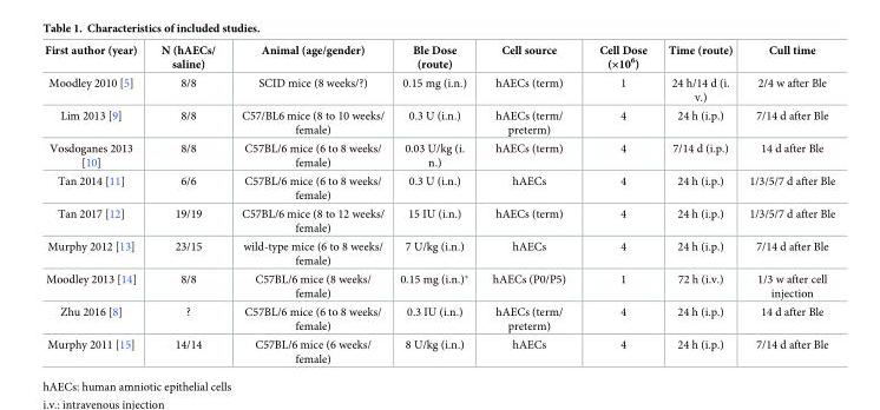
<table><thead><tr><td>First author (year)</td><td>N (hAECs/ saline)</td><td>Animal (age/gender)</td><td>Ble Dose (route)</td><td>Cell source</td><td>Cell Dose (×10<sup>6</sup>)</td><td>Time (route)</td><td>Cull time</td></tr></thead><tbody><tr><td>Moodley 2010 [5]</td><td>8/8</td><td>SCID mice (8 weeks/?)</td><td>0.15 mg (i.n.)</td><td>hAECs (term)</td><td>1</td><td>24 h/14 d (i. v.)</td><td>2/4 w after Ble</td></tr><tr><td>Lim 2013 [9]</td><td>8/8</td><td>C57/BL6 mice (8 to 10 weeks/ female)</td><td>0.3 U (i.n.)</td><td>hAECs (term/ preterm)</td><td>4</td><td>24 h (i.p.)</td><td>7/14 d after Ble</td></tr><tr><td>Vosdoganes 2013 [10]</td><td>8/8</td><td>C57BL/6 mice (6 to 8 weeks/ female)</td><td>0.03 U/kg (i. n.)</td><td>hAECs (term)</td><td>4</td><td>7/14 d (i.p.)</td><td>14 d after Ble</td></tr><tr><td>Tan 2014 [11]</td><td>6/6</td><td>C57BL/6 mice (6 to 8 weeks/ female)</td><td>0.3 U (i.n.)</td><td>hAECs</td><td>4</td><td>24 h (i.p.)</td><td>1/3/5/7 d after Ble</td></tr><tr><td>Tan 2017 [12]</td><td>19/19</td><td>C57BL/6 mice (8 to 12 weeks/ female)</td><td>15 IU (i.n.)</td><td>hAECs (term)</td><td>4</td><td>24 h (i.p.)</td><td>1/3/5/7 d after Ble</td></tr><tr><td>Murphy 2012 [13]</td><td>23/15</td><td>wild-type mice (6 to 8 weeks/ female)</td><td>7 U/kg (i.n.)</td><td>hAECs</td><td>4</td><td>24 h (i.p.)</td><td>7/14 d after Ble</td></tr><tr><td>Moodley 2013 [14]</td><td>8/8</td><td>C57BL/6 mice (8 weeks/ female)</td><td>0.15 mg (i.n.)*</td><td>hAECs (P0/P5)</td><td>1</td><td>72 h (i.v.)</td><td>1/3 w after cell injection</td></tr><tr><td>Zhu 2016 [8]</td><td>?</td><td>C57BL/6 mice (6 to 8 weeks/ female)</td><td>0.3 IU (i.n.)</td><td>hAECs (term/ preterm)</td><td>4</td><td>24 h (i.p.)</td><td>14 d after Ble</td></tr><tr><td>Murphy 2011 [15]</td><td>14/14</td><td>C57BL/6 mice (6 weeks/ female)</td><td>8 U/kg (i.n.)</td><td>hAECs</td><td>4</td><td>24 h (i.p.)</td><td>7/14 d after Ble</td></tr></tbody></table>